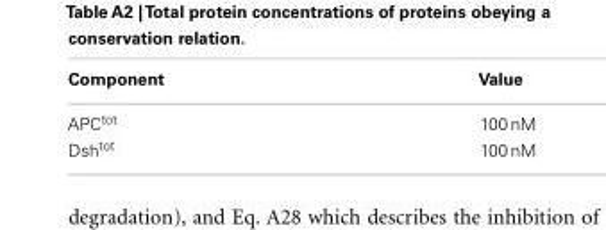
<table><thead><tr><td>Component</td><td>Value</td></tr></thead><tbody><tr><td>APC<sup>tot</sup></td><td>100 nM</td></tr><tr><td>Dsh<sup>tot</sup></td><td>100 nM</td></tr></tbody></table>